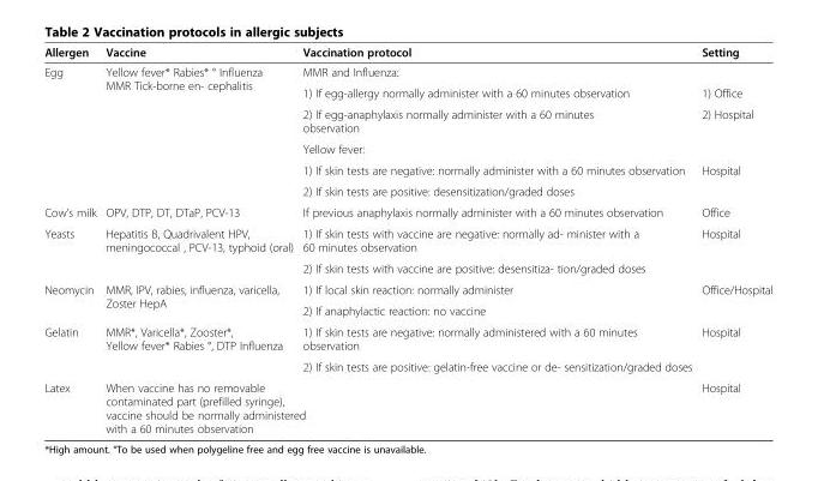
<table><thead><tr><td>Allergen</td><td>Vaccine</td><td>Vaccination protocol</td><td>Setting</td></tr></thead><tbody><tr><td rowspan="6">Egg</td><td rowspan="6">Yellow fever* Rabies* ° Influenza MMR Tick-borne en- cephalitis</td><td>MMR and Influenza:</td><td></td></tr><tr><td>1) If egg-allergy normally administer with a 60 minutes observation</td><td>1) Office</td></tr><tr><td>2) If egg-anaphylaxis normally administer with a 60 minutes observation</td><td>2) Hospital</td></tr><tr><td>Yellow fever:</td><td></td></tr><tr><td>1) If skin tests are negative: normally administer with a 60 minutes observation</td><td rowspan="2">Hospital</td></tr><tr><td>2) If skin tests are positive: desensitization/graded doses</td></tr><tr><td>Cow’s milk</td><td>OPV, DTP, DT, DTaP, PCV-13</td><td>If previous anaphylaxis normally administer with a 60 minutes observation</td><td>Office</td></tr><tr><td rowspan="2">Yeasts</td><td rowspan="2">Hepatitis B, Quadrivalent HPV, meningococcal , PCV-13, typhoid (oral)</td><td>1) If skin tests with vaccine are negative: normally ad- minister with a 60 minutes observation</td><td rowspan="2">Hospital</td></tr><tr><td>2) If skin tests with vaccine are positive: desensitiza- tion/graded doses</td></tr><tr><td rowspan="2">Neomycin</td><td rowspan="2">MMR, IPV, rabies, influenza, varicella, Zoster HepA</td><td>1) If local skin reaction: normally administer</td><td rowspan="2">Office/Hospital</td></tr><tr><td>2) If anaphylactic reaction: no vaccine</td></tr><tr><td rowspan="2">Gelatin</td><td rowspan="2">MMR*, Varicella*, Zooster*, Yellow fever* Rabies °, DTP Influenza</td><td>1) If skin tests are negative: normally administered with a 60 minutes observation</td><td rowspan="2">Hospital</td></tr><tr><td>2) If skin tests are positive: gelatin-free vaccine or de- sensitization/graded doses</td></tr><tr><td>Latex</td><td colspan="2">When vaccine has no removable contaminated part (prefilled syringe), vaccine should be normally administered with a 60 minutes observation</td><td>Hospital</td></tr></tbody></table>